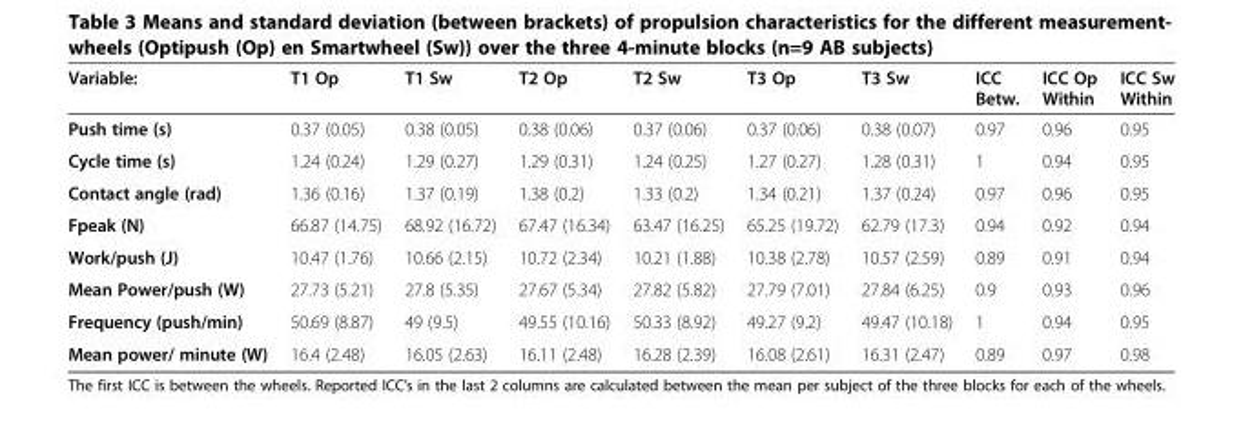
<table><thead><tr><td>Variable:</td><td>T1 Op</td><td>T1 Sw</td><td>T2 Op</td><td>T2 Sw</td><td>T3 Op</td><td>T3 Sw</td><td>ICC Betw.</td><td>ICC Op Within</td><td>ICC Sw Within</td></tr></thead><tbody><tr><td>Push time (s)</td><td>0.37 (0.05)</td><td>0.38 (0.05)</td><td>0.38 (0.06)</td><td>0.37 (0.06)</td><td>0.37 (0.06)</td><td>0.38 (0.07)</td><td>0.97</td><td>0.96</td><td>0.95</td></tr><tr><td>Cycle time (s)</td><td>1.24 (0.24)</td><td>1.29 (0.27)</td><td>1.29 (0.31)</td><td>1.24 (0.25)</td><td>1.27 (0.27)</td><td>1.28 (0.31)</td><td>1</td><td>0.94</td><td>0.95</td></tr><tr><td>Contact angle (rad)</td><td>1.36 (0.16)</td><td>1.37 (0.19)</td><td>1.38 (0.2)</td><td>1.33 (0.2)</td><td>1.34 (0.21)</td><td>1.37 (0.24)</td><td>0.97</td><td>0.96</td><td>0.95</td></tr><tr><td>Fpeak (N)</td><td>66.87 (14.75)</td><td>68.92 (16.72)</td><td>67.47 (16.34)</td><td>63.47 (16.25)</td><td>65.25 (19.72)</td><td>62.79 (17.3)</td><td>0.94</td><td>0.92</td><td>0.94</td></tr><tr><td>Work/push (J)</td><td>10.47 (1.76)</td><td>10.66 (2.15)</td><td>10.72 (2.34)</td><td>10.21 (1.88)</td><td>10.38 (2.78)</td><td>10.57 (2.59)</td><td>0.89</td><td>0.91</td><td>0.94</td></tr><tr><td>Mean Power/push (W)</td><td>27.73 (5.21)</td><td>27.8 (5.35)</td><td>27.67 (5.34)</td><td>27.82 (5.82)</td><td>27.79 (7.01)</td><td>27.84 (6.25)</td><td>0.9</td><td>0.93</td><td>0.96</td></tr><tr><td>Frequency (push/min)</td><td>50.69 (8.87)</td><td>49 (9.5)</td><td>49.55 (10.16)</td><td>50.33 (8.92)</td><td>49.27 (9.2)</td><td>49.47 (10.18)</td><td>1</td><td>0.94</td><td>0.95</td></tr><tr><td>Mean power/ minute (W)</td><td>16.4 (2.48)</td><td>16.05 (2.63)</td><td>16.11 (2.48)</td><td>16.28 (2.39)</td><td>16.08 (2.61)</td><td>16.31 (2.47)</td><td>0.89</td><td>0.97</td><td>0.98</td></tr></tbody></table>